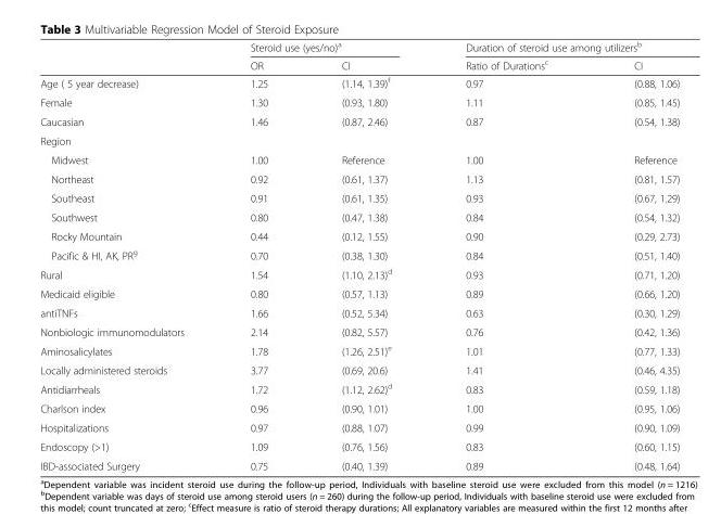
<table><thead><tr><td rowspan="2"></td><td colspan="2">Steroid use (yes/no)<sup>a</sup></td><td colspan="2">Duration of steroid use among utilizers<sup>b</sup></td></tr><tr><td>OR</td><td>CI</td><td>Ratio of Durations<sup>c</sup></td><td>CI</td></tr></thead><tbody><tr><td>Age ( 5 year decrease)</td><td>1.25</td><td>(1.14, 1.39)<sup>f</sup></td><td>0.97</td><td>(0.88, 1.06)</td></tr><tr><td>Female</td><td>1.30</td><td>(0.93, 1.80)</td><td>1.11</td><td>(0.85, 1.45)</td></tr><tr><td>Caucasian</td><td>1.46</td><td>(0.87, 2.46)</td><td>0.87</td><td>(0.54, 1.38)</td></tr><tr><td colspan="5">Region</td></tr><tr><td>Midwest</td><td>1.00</td><td>Reference</td><td>1.00</td><td>Reference</td></tr><tr><td>Northeast</td><td>0.92</td><td>(0.61, 1.37)</td><td>1.13</td><td>(0.81, 1.57)</td></tr><tr><td>Southeast</td><td>0.91</td><td>(0.61, 1.35)</td><td>0.93</td><td>(0.67, 1.29)</td></tr><tr><td>Southwest</td><td>0.80</td><td>(0.47, 1.38)</td><td>0.84</td><td>(0.54, 1.32)</td></tr><tr><td>Rocky Mountain</td><td>0.44</td><td>(0.12, 1.55)</td><td>0.90</td><td>(0.29, 2.73)</td></tr><tr><td>Pacific &amp; HI, AK, PR<sup>g</sup></td><td>0.70</td><td>(0.38, 1.30)</td><td>0.84</td><td>(0.51, 1.40)</td></tr><tr><td>Rural</td><td>1.54</td><td>(1.10, 2.13)<sup>d</sup></td><td>0.93</td><td>(0.71, 1.20)</td></tr><tr><td>Medicaid eligible</td><td>0.80</td><td>(0.57, 1.13)</td><td>0.89</td><td>(0.66, 1.20)</td></tr><tr><td>antiTNFs</td><td>1.66</td><td>(0.52, 5.34)</td><td>0.63</td><td>(0.30, 1.29)</td></tr><tr><td>Nonbiologic immunomodulators</td><td>2.14</td><td>(0.82, 5.57)</td><td>0.76</td><td>(0.42, 1.36)</td></tr><tr><td>Aminosalicylates</td><td>1.78</td><td>(1.26, 2.51)<sup>e</sup></td><td>1.01</td><td>(0.77, 1.33)</td></tr><tr><td>Locally administered steroids</td><td>3.77</td><td>(0.69, 20.6)</td><td>1.41</td><td>(0.46, 4.35)</td></tr><tr><td>Antidiarrheals</td><td>1.72</td><td>(1.12, 2.62)<sup>d</sup></td><td>0.83</td><td>(0.59, 1.18)</td></tr><tr><td>Charlson index</td><td>0.96</td><td>(0.90, 1.01)</td><td>1.00</td><td>(0.95, 1.06)</td></tr><tr><td>Hospitalizations</td><td>0.97</td><td>(0.88, 1.07)</td><td>0.99</td><td>(0.90, 1.09)</td></tr><tr><td>Endoscopy (&gt;1)</td><td>1.09</td><td>(0.76, 1.56)</td><td>0.83</td><td>(0.60, 1.15)</td></tr><tr><td>IBD-associated Surgery</td><td>0.75</td><td>(0.40, 1.39)</td><td>0.89</td><td>(0.48, 1.64)</td></tr></tbody></table>